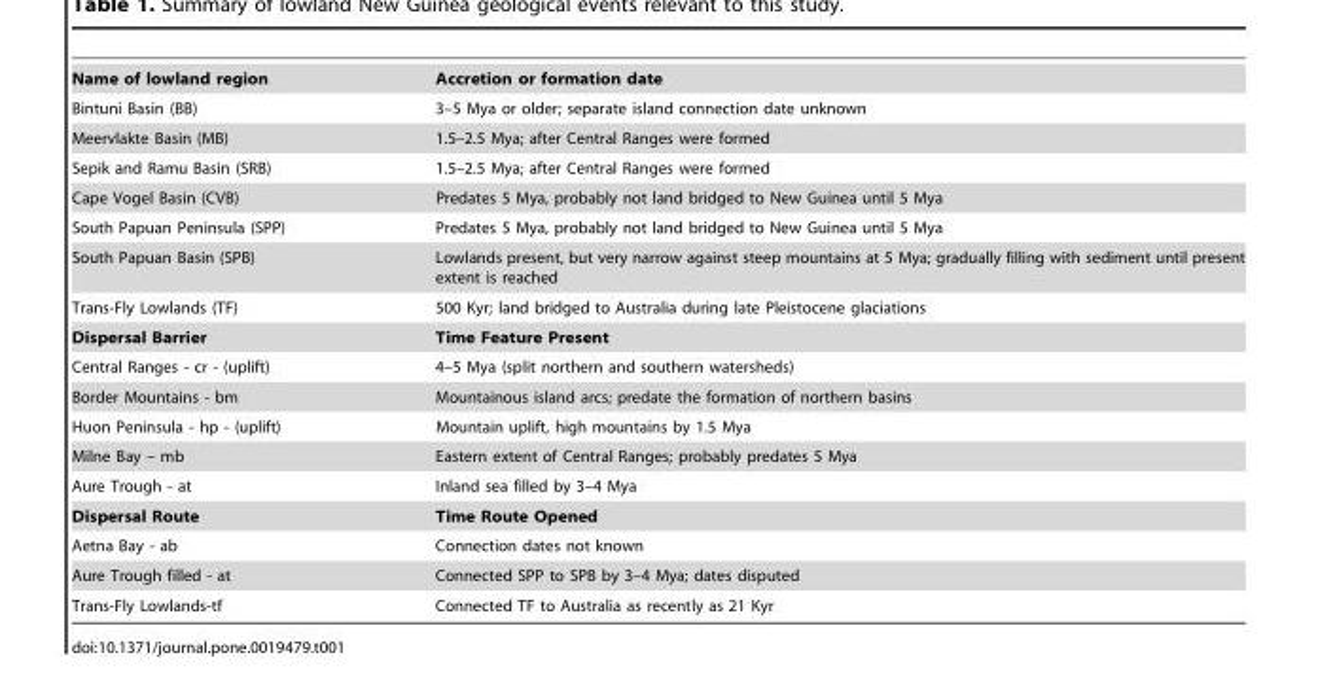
<table><tbody><tr><td>Name of lowland region</td><td>Accretion or formation date</td></tr><tr><td>Bintuni Basin (BB)</td><td>3–5 Mya or older; separate island connection date unknown</td></tr><tr><td>Meervlakte Basin (MB)</td><td>1.5–2.5 Mya; after Central Ranges were formed</td></tr><tr><td>Sepik and Ramu Basin (SRB)</td><td>1.5–2.5 Mya; after Central Ranges were formed</td></tr><tr><td>Cape Vogel Basin (CVB)</td><td>Predates 5 Mya, probably not land bridged to New Guinea until 5 Mya</td></tr><tr><td>South Papuan Peninsula (SPP)</td><td>Predates 5 Mya, probably not land bridged to New Guinea until 5 Mya</td></tr><tr><td>South Papuan Basin (SPB)</td><td>Lowlands present, but very narrow against steep mountains at 5 Mya; gradually filling with sediment until present extent is reached</td></tr><tr><td>Trans-Fly Lowlands (TF)</td><td>500 Kyr; land bridged to Australia during late Pleistocene glaciations</td></tr><tr><td>Dispersal Barrier</td><td>Time Feature Present</td></tr><tr><td>Central Ranges - cr - (uplift)</td><td>4–5 Mya (split northern and southern watersheds)</td></tr><tr><td>Border Mountains - bm</td><td>Mountainous island arcs; predate the formation of northern basins</td></tr><tr><td>Huon Peninsula - hp - (uplift)</td><td>Mountain uplift, high mountains by 1.5 Mya</td></tr><tr><td>Milne Bay – mb</td><td>Eastern extent of Central Ranges; probably predates 5 Mya</td></tr><tr><td>Aure Trough - at</td><td>Inland sea filled by 3–4 Mya</td></tr><tr><td>Dispersal Route</td><td>Time Route Opened</td></tr><tr><td>Aetna Bay - ab</td><td>Connection dates not known</td></tr><tr><td>Aure Trough filled - at</td><td>Connected SPP to SPB by 3–4 Mya; dates disputed</td></tr><tr><td>Trans-Fly Lowlands-tf</td><td>Connected TF to Australia as recently as 21 Kyr</td></tr></tbody></table>